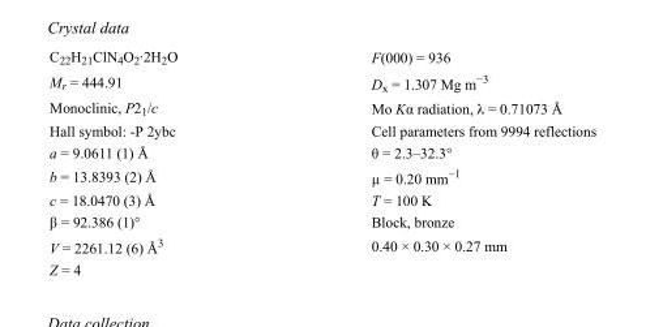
<table><tbody><tr><td>C<sub>22</sub>H<sub>21</sub>ClN<sub>4</sub>O<sub>2</sub>·2H<sub>2</sub>O</td><td>F(000) = 936</td></tr><tr><td>M<sub>r</sub> = 444.91</td><td>D<sub>x</sub> = 1.307 Mg m<sup>−3</sup></td></tr><tr><td>Monoclinic, P2<sub>1</sub>/c</td><td>Mo Kα radiation, λ = 0.71073 Å</td></tr><tr><td>Hall symbol: -P 2ybc</td><td>Cell parameters from 9994 reflections</td></tr><tr><td>a = 9.0611 (1) Å</td><td>θ = 2.3–32.3°</td></tr><tr><td>b = 13.8393 (2) Å</td><td>µ = 0.20 mm<sup>−1</sup></td></tr><tr><td>c = 18.0470 (3) Å</td><td>T = 100 K</td></tr><tr><td>β = 92.386 (1)°</td><td>Block, bronze</td></tr><tr><td>V = 2261.12 (6) Å<sup>3</sup></td><td>0.40 × 0.30 × 0.27 mm</td></tr><tr><td>Z = 4</td><td></td></tr></tbody></table>